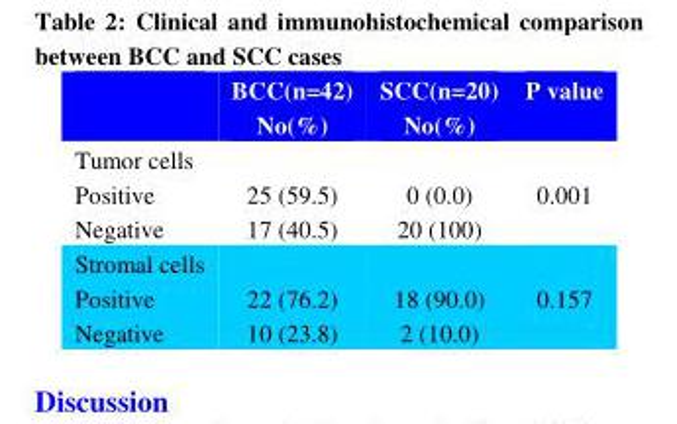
<table><thead><tr><td></td><td>BCC(n=42) No(%)</td><td>SCC(n=20) No(%)</td><td>P value</td></tr></thead><tbody><tr><td>Tumor cells Positive Negative</td><td>25 (59.5) 17 (40.5)</td><td>0 (0.0) 20 (100)</td><td>0.001</td></tr><tr><td>Stromal cells Positive Negative</td><td>22 (76.2) 10 (23.8)</td><td>18 (90.0) 2 (10.0)</td><td>0.157</td></tr></tbody></table>